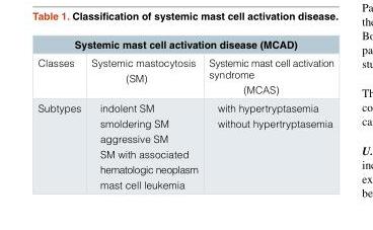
<table><thead><tr><td colspan="3">Systemic mast cell activation disease (MCAD)</td></tr><tr><td>Classes</td><td>Systemic mastocytosis (SM)</td><td>Systemic mast cell activation syndrome (MCAS)</td></tr></thead><tbody><tr><td>Subtypes</td><td>indolent SM smoldering SM aggressive SM SM with associated hematologic neoplasm mast cell leukemia</td><td>with hypertryptasemia without hypertryptasemia</td></tr></tbody></table>